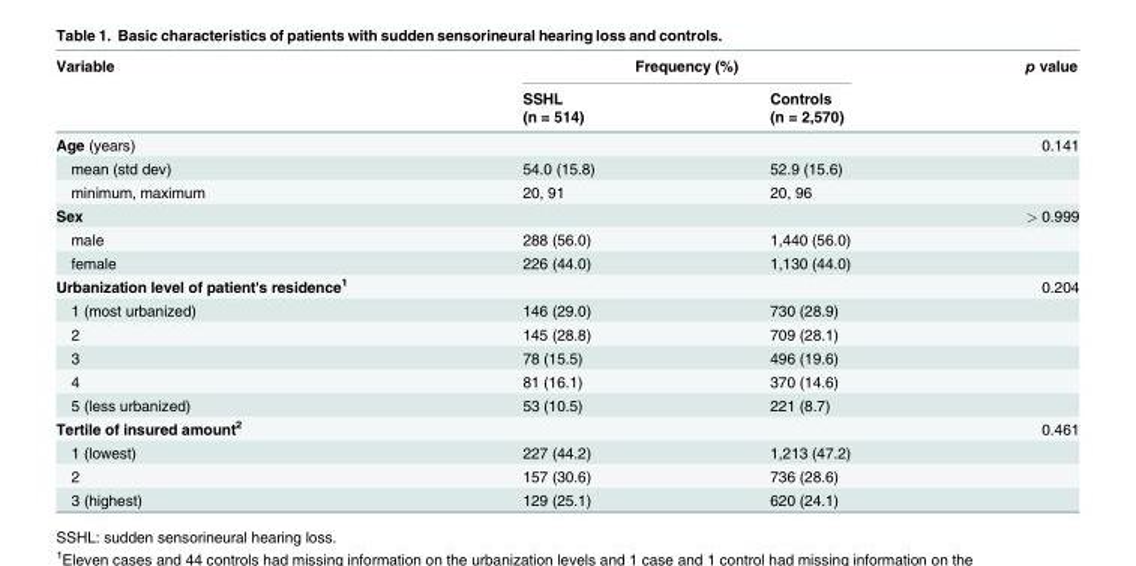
<table><thead><tr><td rowspan="3">Variable</td><td colspan="2">Frequency (%)</td><td rowspan="3">p value</td></tr><tr><td rowspan="2">SSHL (n = 514)</td><td rowspan="2">Controls (n = 2,570)</td></tr><tr></tr></thead><tbody><tr><td>Age (years)</td><td></td><td></td><td>0.141</td></tr><tr><td>mean (std dev)</td><td>54.0 (15.8)</td><td>52.9 (15.6)</td><td></td></tr><tr><td>minimum, maximum</td><td>20, 91</td><td>20, 96</td><td></td></tr><tr><td>Sex</td><td></td><td></td><td>&gt; 0.999</td></tr><tr><td>male</td><td>288 (56.0)</td><td>1,440 (56.0)</td><td></td></tr><tr><td>female</td><td>226 (44.0)</td><td>1,130 (44.0)</td><td></td></tr><tr><td>Urbanization level of patient&#x27;s residence<sup>1</sup></td><td></td><td></td><td>0.204</td></tr><tr><td>1 (most urbanized)</td><td>146 (29.0)</td><td>730 (28.9)</td><td></td></tr><tr><td>2</td><td>145 (28.8)</td><td>709 (28.1)</td><td></td></tr><tr><td>3</td><td>78 (15.5)</td><td>496 (19.6)</td><td></td></tr><tr><td>4</td><td>81 (16.1)</td><td>370 (14.6)</td><td></td></tr><tr><td>5 (less urbanized)</td><td>53 (10.5)</td><td>221 (8.7)</td><td></td></tr><tr><td>Tertile of insured amount<sup>2</sup></td><td></td><td></td><td>0.461</td></tr><tr><td>1 (lowest)</td><td>227 (44.2)</td><td>1,213 (47.2)</td><td></td></tr><tr><td>2</td><td>157 (30.6)</td><td>736 (28.6)</td><td></td></tr><tr><td>3 (highest)</td><td>129 (25.1)</td><td>620 (24.1)</td><td></td></tr></tbody></table>